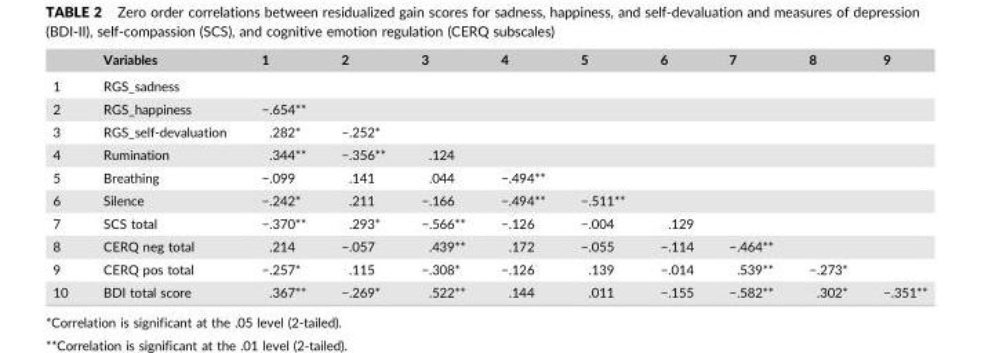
<table><thead><tr><td></td><td>Variables</td><td>1</td><td>2</td><td>3</td><td>4</td><td>5</td><td>6</td><td>7</td><td>8</td><td>9</td></tr></thead><tbody><tr><td>1</td><td>RGS_sadness</td><td></td><td></td><td></td><td></td><td></td><td></td><td></td><td></td><td></td></tr><tr><td>2</td><td>RGS_happiness</td><td>−.654**</td><td></td><td></td><td></td><td></td><td></td><td></td><td></td><td></td></tr><tr><td>3</td><td>RGS_self‐devaluation</td><td>.282*</td><td>−.252*</td><td></td><td></td><td></td><td></td><td></td><td></td><td></td></tr><tr><td>4</td><td>Rumination</td><td>.344**</td><td>−.356**</td><td>.124</td><td></td><td></td><td></td><td></td><td></td><td></td></tr><tr><td>5</td><td>Breathing</td><td>−.099</td><td>.141</td><td>.044</td><td>−.494**</td><td></td><td></td><td></td><td></td><td></td></tr><tr><td>6</td><td>Silence</td><td>−.242*</td><td>.211</td><td>−.166</td><td>−.494**</td><td>−.511**</td><td></td><td></td><td></td><td></td></tr><tr><td>7</td><td>SCS total</td><td>−.370**</td><td>.293*</td><td>−.566**</td><td>−.126</td><td>−.004</td><td>.129</td><td></td><td></td><td></td></tr><tr><td>8</td><td>CERQ neg total</td><td>.214</td><td>−.057</td><td>.439**</td><td>.172</td><td>−.055</td><td>−.114</td><td>−.464**</td><td></td><td></td></tr><tr><td>9</td><td>CERQ pos total</td><td>−.257*</td><td>.115</td><td>−.308*</td><td>−.126</td><td>.139</td><td>−.014</td><td>.539**</td><td>−.273*</td><td></td></tr><tr><td>10</td><td>BDI total score</td><td>.367**</td><td>−.269*</td><td>.522**</td><td>.144</td><td>.011</td><td>−.155</td><td>−.582**</td><td>.302*</td><td>−.351**</td></tr></tbody></table>